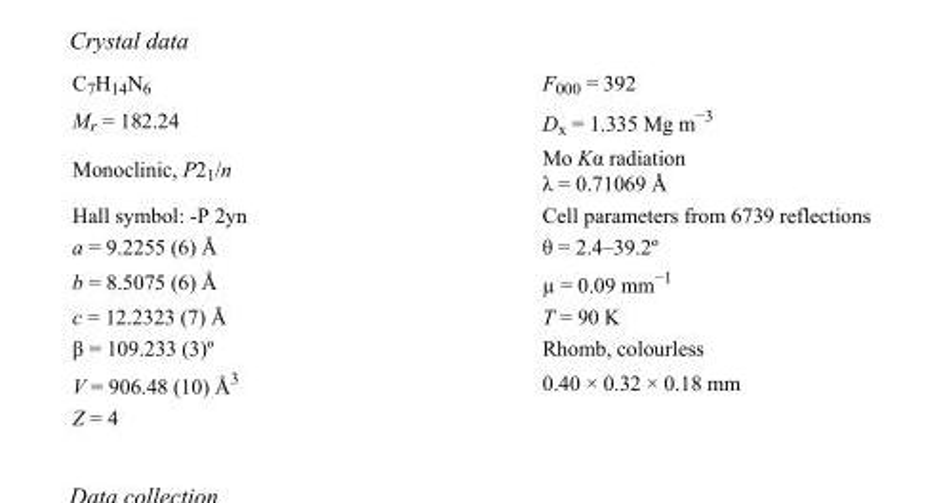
<table><tbody><tr><td>C<sub>7</sub>H<sub>14</sub>N<sub>6</sub></td><td>F000 = 392</td></tr><tr><td>M<sub>r</sub> = 182.24</td><td>D<sub>x</sub> = 1.335 Mg m<sup>−3</sup></td></tr><tr><td>Monoclinic, P2<sub>1</sub>/n</td><td>Mo Kα radiation λ = 0.71069 Å</td></tr><tr><td>Hall symbol: -P 2yn</td><td>Cell parameters from 6739 reflections</td></tr><tr><td>a = 9.2255 (6) Å</td><td>θ = 2.4–39.2º</td></tr><tr><td>b = 8.5075 (6) Å</td><td>µ = 0.09 mm<sup>−1</sup></td></tr><tr><td>c = 12.2323 (7) Å</td><td>T = 90 K</td></tr><tr><td>β = 109.233 (3)º</td><td>Rhomb, colourless</td></tr><tr><td>V = 906.48 (10) Å<sup>3</sup></td><td>0.40 × 0.32 × 0.18 mm</td></tr><tr><td>Z = 4</td><td></td></tr></tbody></table>